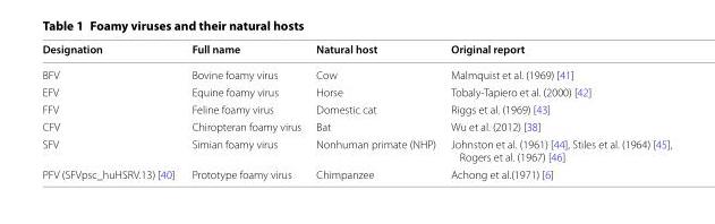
<table><thead><tr><td>Designation</td><td>Full name</td><td>Natural host</td><td>Original report</td></tr></thead><tbody><tr><td>BFV</td><td>Bovine foamy virus</td><td>Cow</td><td>Malmquist et al. (1969) [41]</td></tr><tr><td>EFV</td><td>Equine foamy virus</td><td>Horse</td><td>Tobaly‑Tapiero et al. (2000) [42]</td></tr><tr><td>FFV</td><td>Feline foamy virus</td><td>Domestic cat</td><td>Riggs et al. (1969) [43]</td></tr><tr><td>CFV</td><td>Chiropteran foamy virus</td><td>Bat</td><td>Wu et al. (2012) [38]</td></tr><tr><td>SFV</td><td>Simian foamy virus</td><td>Nonhuman primate (NHP)</td><td>Johnston et al. (1961) [44], Stiles et al. (1964) [45], Rogers et al. (1967) [46]</td></tr><tr><td>PFV (SFVpsc_huHSRV.13) [40]</td><td>Prototype foamy virus</td><td>Chimpanzee</td><td>Achong et al.(1971) [6]</td></tr></tbody></table>